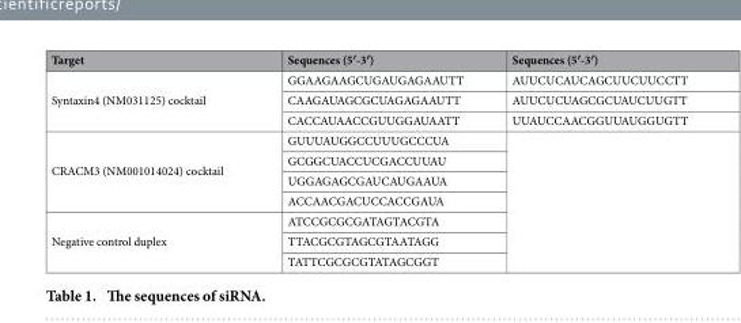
<table><thead><tr><td>Target</td><td>Sequences (5′-3′)</td><td>Sequences (5′-3′)</td></tr></thead><tbody><tr><td rowspan="3">Syntaxin4 (NM031125) cocktail</td><td>GGAAGAAGCUGAUGAGAAUTT</td><td>AUUCUCAUCAGCUUCUUCCTT</td></tr><tr><td>CAAGAUAGCGCUAGAGAAUTT</td><td>AUUCUCUAGCGCUAUCUUGTT</td></tr><tr><td>CACCAUAACCGUUGGAUAATT</td><td>UUAUCCAACGGUUAUGGUGTT</td></tr><tr><td rowspan="4">CRACM3 (NM001014024) cocktail</td><td>GUUUAUGGCCUUUGCCCUA</td><td rowspan="7"></td></tr><tr><td>GCGGCUACCUCGACCUUAU</td></tr><tr><td>UGGAGAGCGAUCAUGAAUA</td></tr><tr><td>ACCAACGACUCCACCGAUA</td></tr><tr><td rowspan="3">Negative control duplex</td><td>ATCCGCGCGATAGTACGTA</td></tr><tr><td>TTACGCGTAGCGTAATAGG</td></tr><tr><td>TATTCGCGCGTATAGCGGT</td></tr></tbody></table>